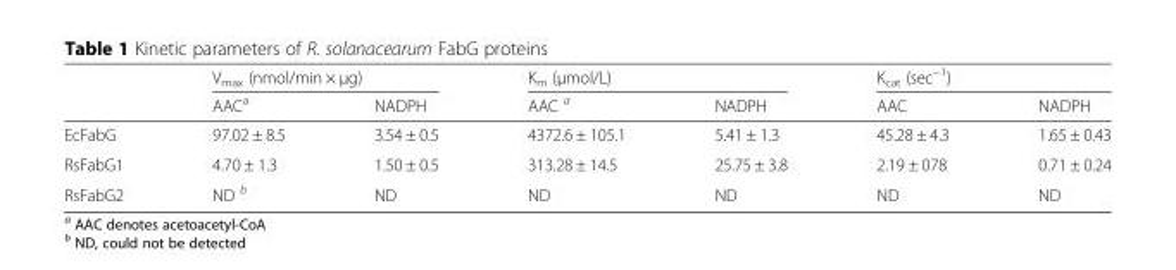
<table><thead><tr><td rowspan="2"></td><td colspan="2">V<sub>max</sub> (nmol/min × μg)</td><td colspan="2">K<sub>m</sub> (μmol/L)</td><td colspan="2">K<sub>cat</sub> (sec<sup>−1</sup>)</td></tr><tr><td>AAC<sup>a</sup></td><td>NADPH</td><td>AAC <sup>a</sup></td><td>NADPH</td><td>AAC</td><td>NADPH</td></tr></thead><tbody><tr><td>EcFabG</td><td>97.02 ± 8.5</td><td>3.54 ± 0.5</td><td>4372.6 ± 105.1</td><td>5.41 ± 1.3</td><td>45.28 ± 4.3</td><td>1.65 ± 0.43</td></tr><tr><td>RsFabG1</td><td>4.70 ± 1.3</td><td>1.50 ± 0.5</td><td>313.28 ± 14.5</td><td>25.75 ± 3.8</td><td>2.19 ± 078</td><td>0.71 ± 0.24</td></tr><tr><td>RsFabG2</td><td>ND <sup>b</sup></td><td>ND</td><td>ND</td><td>ND</td><td>ND</td><td>ND</td></tr></tbody></table>